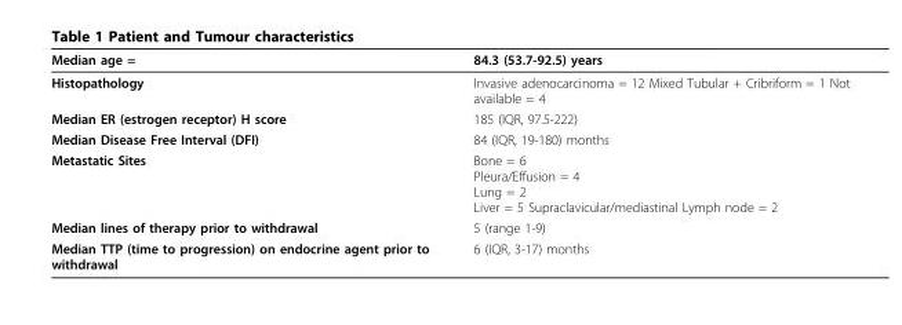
<table><thead><tr><td>Median age =</td><td>84.3 (53.7-92.5) years</td></tr></thead><tbody><tr><td>Histopathology</td><td>Invasive adenocarcinoma = 12 Mixed Tubular + Cribriform = 1 Not available = 4</td></tr><tr><td>Median ER (estrogen receptor) H score</td><td>185 (IQR, 97.5-222)</td></tr><tr><td>Median Disease Free Interval (DFI)</td><td>84 (IQR, 19-180) months</td></tr><tr><td>Metastatic Sites</td><td>Bone = 6 Pleura/Effusion = 4 Lung = 2 Liver = 5 Supraclavicular/mediastinal Lymph node = 2</td></tr><tr><td>Median lines of therapy prior to withdrawal</td><td>5 (range 1-9)</td></tr><tr><td>Median TTP (time to progression) on endocrine agent prior to withdrawal</td><td>6 (IQR, 3-17) months</td></tr></tbody></table>